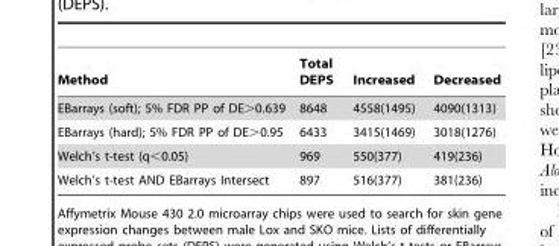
<table><thead><tr><td>Method</td><td>Total DEPS</td><td>Increased</td><td>Decreased</td></tr></thead><tbody><tr><td>EBarrays (soft); 5% FDR PP of DE&gt;0.639</td><td>8648</td><td>4558(1495)</td><td>4090(1313)</td></tr><tr><td>EBarrays (hard); 5% FDR PP of DE&gt;0.95</td><td>6433</td><td>3415(1469)</td><td>3018(1276)</td></tr><tr><td>Welch’s t-test (q&lt;0.05)</td><td>969</td><td>550(377)</td><td>419(236)</td></tr><tr><td>Welch’s t-test AND EBarrays Intersect</td><td>897</td><td>516(377)</td><td>381(236)</td></tr></tbody></table>